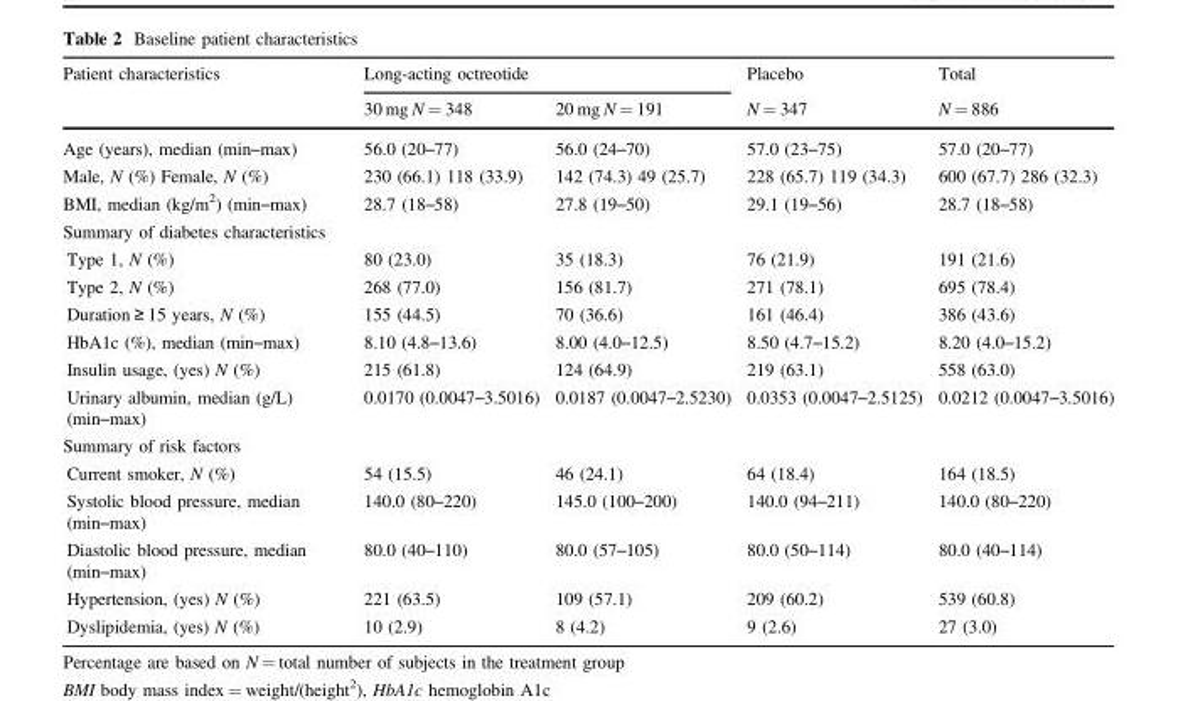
<table><thead><tr><td rowspan="2">Patient characteristics</td><td colspan="2">Long-acting octreotide</td><td rowspan="2">Placebo N = 347</td><td rowspan="2">Total N = 886</td></tr><tr><td>30 mg N = 348</td><td>20 mg N = 191</td></tr></thead><tbody><tr><td>Age (years), median (min–max)</td><td>56.0 (20–77)</td><td>56.0 (24–70)</td><td>57.0 (23–75)</td><td>57.0 (20–77)</td></tr><tr><td>Male, N (%) Female, N (%)</td><td>230 (66.1) 118 (33.9)</td><td>142 (74.3) 49 (25.7)</td><td>228 (65.7) 119 (34.3)</td><td>600 (67.7) 286 (32.3)</td></tr><tr><td>BMI, median (kg/m<sup>2</sup>) (min–max)</td><td>28.7 (18–58)</td><td>27.8 (19–50)</td><td>29.1 (19–56)</td><td>28.7 (18–58)</td></tr><tr><td colspan="5">Summary of diabetes characteristics</td></tr><tr><td>Type 1, N (%)</td><td>80 (23.0)</td><td>35 (18.3)</td><td>76 (21.9)</td><td>191 (21.6)</td></tr><tr><td>Type 2, N (%)</td><td>268 (77.0)</td><td>156 (81.7)</td><td>271 (78.1)</td><td>695 (78.4)</td></tr><tr><td>Duration ≥ 15 years, N (%)</td><td>155 (44.5)</td><td>70 (36.6)</td><td>161 (46.4)</td><td>386 (43.6)</td></tr><tr><td>HbA1c (%), median (min–max)</td><td>8.10 (4.8–13.6)</td><td>8.00 (4.0–12.5)</td><td>8.50 (4.7–15.2)</td><td>8.20 (4.0–15.2)</td></tr><tr><td>Insulin usage, (yes) N (%)</td><td>215 (61.8)</td><td>124 (64.9)</td><td>219 (63.1)</td><td>558 (63.0)</td></tr><tr><td>Urinary albumin, median (g/L) (min–max)</td><td>0.0170 (0.0047–3.5016)</td><td>0.0187 (0.0047–2.5230)</td><td>0.0353 (0.0047–2.5125)</td><td>0.0212 (0.0047–3.5016)</td></tr><tr><td colspan="5">Summary of risk factors</td></tr><tr><td>Current smoker, N (%)</td><td>54 (15.5)</td><td>46 (24.1)</td><td>64 (18.4)</td><td>164 (18.5)</td></tr><tr><td>Systolic blood pressure, median (min–max)</td><td>140.0 (80–220)</td><td>145.0 (100–200)</td><td>140.0 (94–211)</td><td>140.0 (80–220)</td></tr><tr><td>Diastolic blood pressure, median (min–max)</td><td>80.0 (40–110)</td><td>80.0 (57–105)</td><td>80.0 (50–114)</td><td>80.0 (40–114)</td></tr><tr><td>Hypertension, (yes) N (%)</td><td>221 (63.5)</td><td>109 (57.1)</td><td>209 (60.2)</td><td>539 (60.8)</td></tr><tr><td>Dyslipidemia, (yes) N (%)</td><td>10 (2.9)</td><td>8 (4.2)</td><td>9 (2.6)</td><td>27 (3.0)</td></tr></tbody></table>